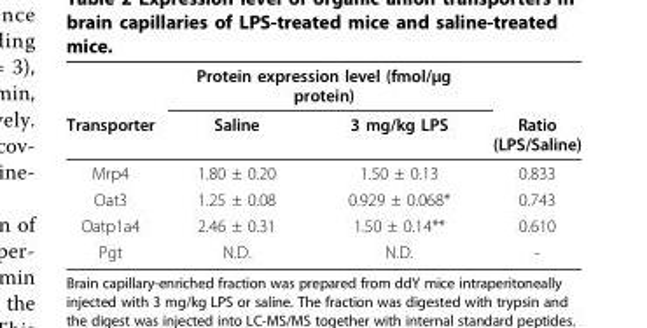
<table><thead><tr><td rowspan="2">Transporter</td><td colspan="2">Protein expression level (fmol/μg protein)</td><td rowspan="2">Ratio (LPS/Saline)</td></tr><tr><td>Saline</td><td>3 mg/kg LPS</td></tr></thead><tbody><tr><td>Mrp4</td><td>1.80 ± 0.20</td><td>1.50 ± 0.13</td><td>0.833</td></tr><tr><td>Oat3</td><td>1.25 ± 0.08</td><td>0.929 ± 0.068*</td><td>0.743</td></tr><tr><td>Oatp1a4</td><td>2.46 ± 0.31</td><td>1.50 ± 0.14**</td><td>0.610</td></tr><tr><td>Pgt</td><td>N.D.</td><td>N.D.</td><td>-</td></tr></tbody></table>